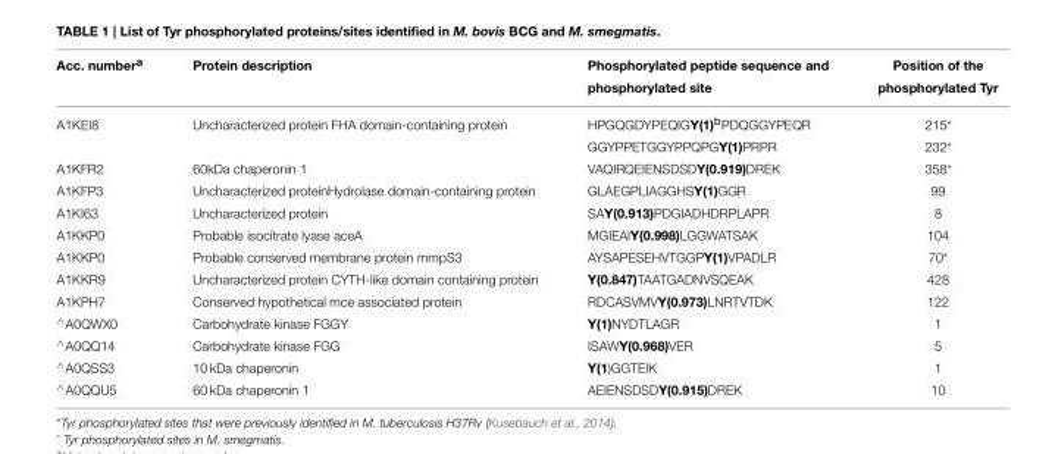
<table><thead><tr><td>Acc. number<sup>a</sup></td><td>Protein description</td><td>Phosphorylated peptide sequence and phosphorylated site</td><td>Position of the phosphorylated Tyr</td></tr></thead><tbody><tr><td rowspan="2">A1KEI8</td><td>Uncharacterized protein FHA domain-containing protein</td><td>HPGQGDYPEQIGY(1)<sup>b</sup>PDQGGYPEQR</td><td>215*</td></tr><tr><td></td><td>GGYPPETGGYPPQPGY(1)PRPR</td><td>232*</td></tr><tr><td>A1KFR2</td><td>60kDa chaperonin 1</td><td>VAQIRQEIENSDSDY(0.919)DREK</td><td>358*</td></tr><tr><td>A1KFP3</td><td>Uncharacterized proteinHydrolase domain-containing protein</td><td>GLAEGPLIAGGHSY(1)GGR</td><td>99</td></tr><tr><td>A1KI63</td><td>Uncharacterized protein</td><td>SAY(0.913)PDGIADHDRPLAPR</td><td>8</td></tr><tr><td>A1KKP0</td><td>Probable isocitrate lyase aceA</td><td>MGIEAIY(0.998)LGGWATSAK</td><td>104</td></tr><tr><td>A1KKP0</td><td>Probable conserved membrane protein mmpS3</td><td>AYSAPESEHVTGGPY(1)VPADLR</td><td>70*</td></tr><tr><td>A1KKR9</td><td>Uncharacterized protein CYTH-like domain containing protein</td><td>Y(0.847)TAATGADNVSQEAK</td><td>428</td></tr><tr><td>A1KPH7</td><td>Conserved hypothetical mce associated protein</td><td>RDCASVMVY(0.973)LNRTVTDK</td><td>122</td></tr><tr><td>∧A0QWX0</td><td>Carbohydrate kinase FGGY</td><td>Y(1)NYDTLAGR</td><td>1</td></tr><tr><td>∧A0QQ14</td><td>Carbohydrate kinase FGG</td><td>ISAWY(0.968)VER</td><td>5</td></tr><tr><td>∧A0QSS3</td><td>10 kDa chaperonin</td><td>Y(1)GGTEIK</td><td>1</td></tr><tr><td>∧A0QQU5</td><td>60 kDa chaperonin 1</td><td>AEIENSDSDY(0.915)DREK</td><td>10</td></tr></tbody></table>